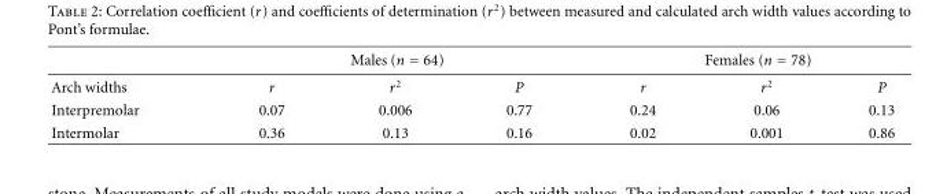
<table><thead><tr><td rowspan="2">Arch widths</td><td colspan="3">Males (n = 64)</td><td colspan="3">Females (n = 78)</td></tr><tr><td>r</td><td>r<sup>2</sup></td><td>P</td><td>r</td><td>r<sup>2</sup></td><td>P</td></tr></thead><tbody><tr><td>Interpremolar</td><td>0.07</td><td>0.006</td><td>0.77</td><td>0.24</td><td>0.06</td><td>0.13</td></tr><tr><td>Intermolar</td><td>0.36</td><td>0.13</td><td>0.16</td><td>0.02</td><td>0.001</td><td>0.86</td></tr></tbody></table>